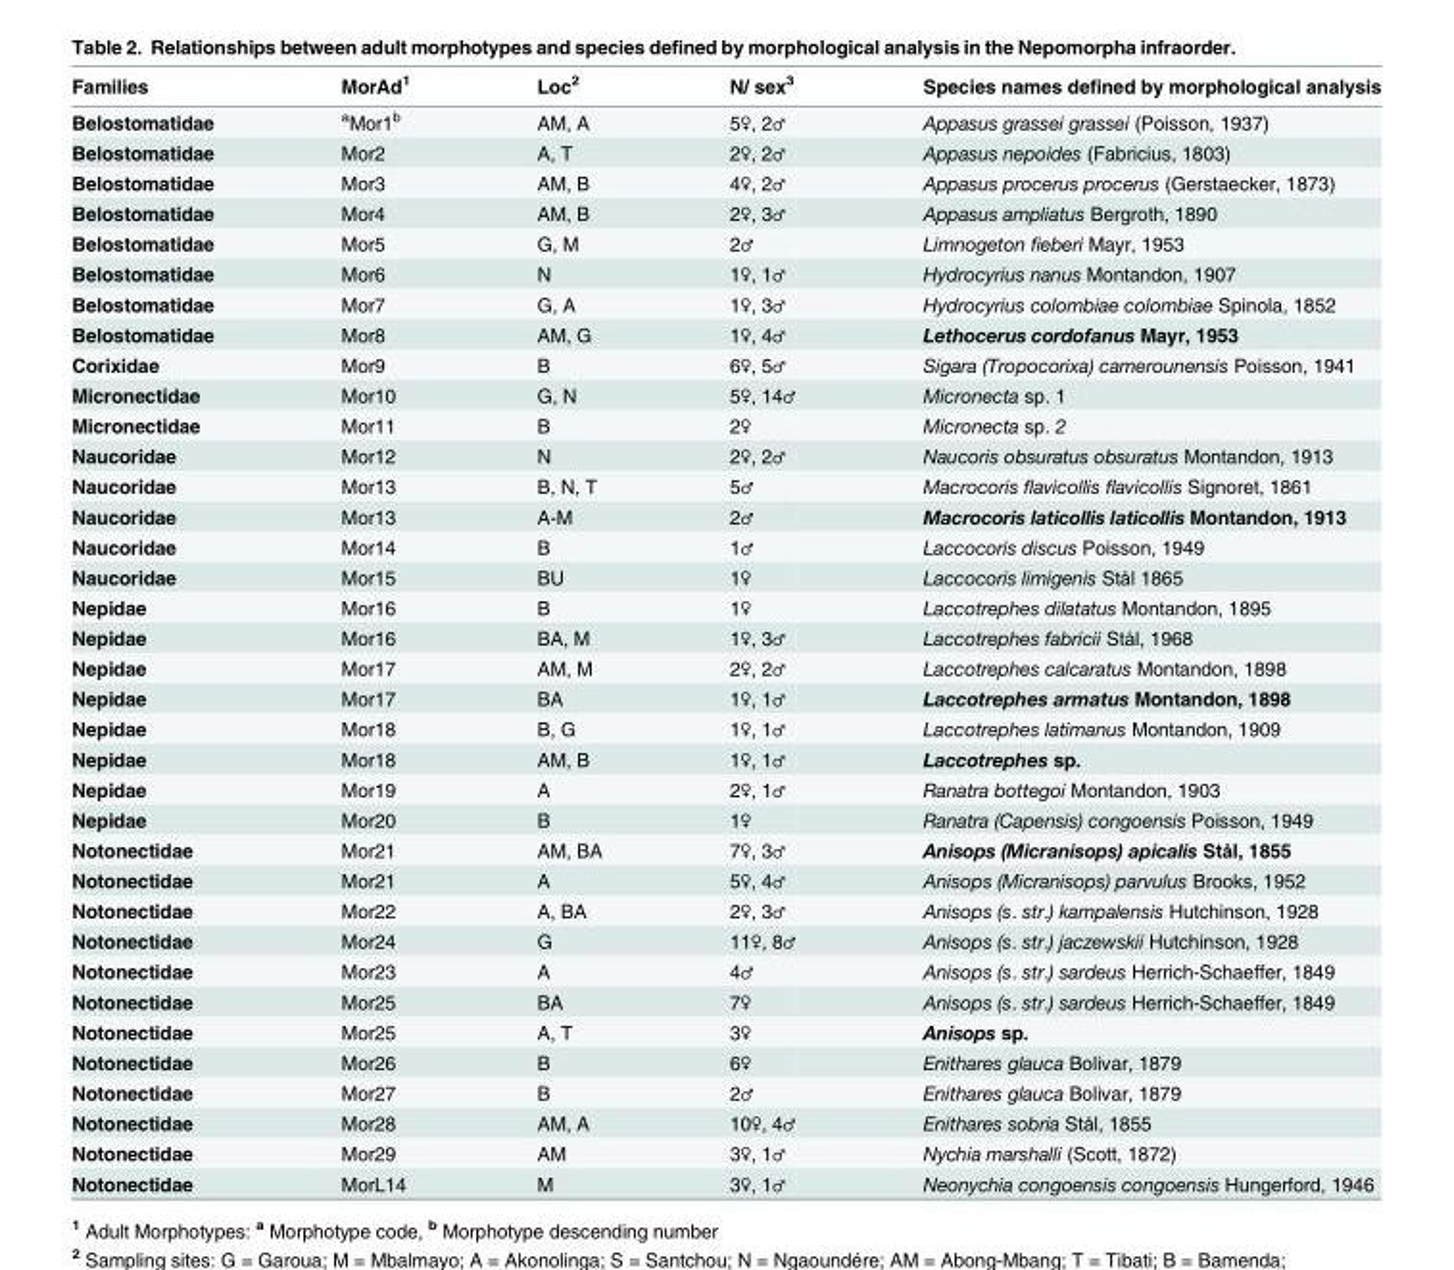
<table><thead><tr><td>Families</td><td>MorAd<sup>1</sup></td><td>Loc<sup>2</sup></td><td>N/ sex<sup>3</sup></td><td>Species names defined by morphological analysis</td></tr></thead><tbody><tr><td>Belostomatidae</td><td><sup>a</sup>Mor1<sup>b</sup></td><td>AM, A</td><td>5♀, 2♂</td><td>Appasus grassei grassei (Poisson, 1937)</td></tr><tr><td>Belostomatidae</td><td>Mor2</td><td>A, T</td><td>2♀, 2♂</td><td>Appasus nepoides (Fabricius, 1803)</td></tr><tr><td>Belostomatidae</td><td>Mor3</td><td>AM, B</td><td>4♀, 2♂</td><td>Appasus procerus procerus (Gerstaecker, 1873)</td></tr><tr><td>Belostomatidae</td><td>Mor4</td><td>AM, B</td><td>2♀, 3♂</td><td>Appasus ampliatus Bergroth, 1890</td></tr><tr><td>Belostomatidae</td><td>Mor5</td><td>G, M</td><td>2♂</td><td>Limnogeton fieberi Mayr, 1953</td></tr><tr><td>Belostomatidae</td><td>Mor6</td><td>N</td><td>1♀, 1♂</td><td>Hydrocyrius nanus Montandon, 1907</td></tr><tr><td>Belostomatidae</td><td>Mor7</td><td>G, A</td><td>1♀, 3♂</td><td>Hydrocyrius colombiae colombiae Spinola, 1852</td></tr><tr><td>Belostomatidae</td><td>Mor8</td><td>AM, G</td><td>1♀, 4♂</td><td>Lethocerus cordofanus Mayr, 1953</td></tr><tr><td>Corixidae</td><td>Mor9</td><td>B</td><td>6♀, 5♂</td><td>Sigara (Tropocorixa) camerounensis Poisson, 1941</td></tr><tr><td>Micronectidae</td><td>Mor10</td><td>G, N</td><td>5♀, 14♂</td><td>Micronecta sp. 1</td></tr><tr><td>Micronectidae</td><td>Mor11</td><td>B</td><td>2♀</td><td>Micronecta sp. 2</td></tr><tr><td>Naucoridae</td><td>Mor12</td><td>N</td><td>2♀, 2♂</td><td>Naucoris obsuratus obsuratus Montandon, 1913</td></tr><tr><td>Naucoridae</td><td>Mor13</td><td>B, N, T</td><td>5♂</td><td>Macrocoris flavicollis flavicollis Signoret, 1861</td></tr><tr><td>Naucoridae</td><td>Mor13</td><td>A-M</td><td>2♂</td><td>Macrocoris laticollis laticollis Montandon, 1913</td></tr><tr><td>Naucoridae</td><td>Mor14</td><td>B</td><td>1♂</td><td>Laccocoris discus Poisson, 1949</td></tr><tr><td>Naucoridae</td><td>Mor15</td><td>BU</td><td>1♀</td><td>Laccocoris limigenis Stål 1865</td></tr><tr><td>Nepidae</td><td>Mor16</td><td>B</td><td>1♀</td><td>Laccotrephes dilatatus Montandon, 1895</td></tr><tr><td>Nepidae</td><td>Mor16</td><td>BA, M</td><td>1♀, 3♂</td><td>Laccotrephes fabricii Stål, 1968</td></tr><tr><td>Nepidae</td><td>Mor17</td><td>AM, M</td><td>2♀, 2♂</td><td>Laccotrephes calcaratus Montandon, 1898</td></tr><tr><td>Nepidae</td><td>Mor17</td><td>BA</td><td>1♀, 1♂</td><td>Laccotrephes armatus Montandon, 1898</td></tr><tr><td>Nepidae</td><td>Mor18</td><td>B, G</td><td>1♀, 1♂</td><td>Laccotrephes latimanus Montandon, 1909</td></tr><tr><td>Nepidae</td><td>Mor18</td><td>AM, B</td><td>1♀, 1♂</td><td>Laccotrephes sp.</td></tr><tr><td>Nepidae</td><td>Mor19</td><td>A</td><td>2♀, 1♂</td><td>Ranatra bottegoi Montandon, 1903</td></tr><tr><td>Nepidae</td><td>Mor20</td><td>B</td><td>1♀</td><td>Ranatra (Capensis) congoensis Poisson, 1949</td></tr><tr><td>Notonectidae</td><td>Mor21</td><td>AM, BA</td><td>7♀, 3♂</td><td>Anisops (Micranisops) apicalis Stål, 1855</td></tr><tr><td>Notonectidae</td><td>Mor21</td><td>A</td><td>5♀, 4♂</td><td>Anisops (Micranisops) parvulus Brooks, 1952</td></tr><tr><td>Notonectidae</td><td>Mor22</td><td>A, BA</td><td>2♀, 3♂</td><td>Anisops (s. str.) kampalensis Hutchinson, 1928</td></tr><tr><td>Notonectidae</td><td>Mor24</td><td>G</td><td>11♀, 8♂</td><td>Anisops (s. str.) jaczewskii Hutchinson, 1928</td></tr><tr><td>Notonectidae</td><td>Mor23</td><td>A</td><td>4♂</td><td>Anisops (s. str.) sardeus Herrich-Schaeffer, 1849</td></tr><tr><td>Notonectidae</td><td>Mor25</td><td>BA</td><td>7♀</td><td>Anisops (s. str.) sardeus Herrich-Schaeffer, 1849</td></tr><tr><td>Notonectidae</td><td>Mor25</td><td>A, T</td><td>3♀</td><td>Anisops sp.</td></tr><tr><td>Notonectidae</td><td>Mor26</td><td>B</td><td>6♀</td><td>Enithares glauca Bolivar, 1879</td></tr><tr><td>Notonectidae</td><td>Mor27</td><td>B</td><td>2♂</td><td>Enithares glauca Bolivar, 1879</td></tr><tr><td>Notonectidae</td><td>Mor28</td><td>AM, A</td><td>10♀, 4♂</td><td>Enithares sobria Stål, 1855</td></tr><tr><td>Notonectidae</td><td>Mor29</td><td>AM</td><td>3♀, 1♂</td><td>Nychia marshalli (Scott, 1872)</td></tr><tr><td>Notonectidae</td><td>MorL14</td><td>M</td><td>3♀, 1♂</td><td>Neonychia congoensis congoensis Hungerford, 1946</td></tr></tbody></table>